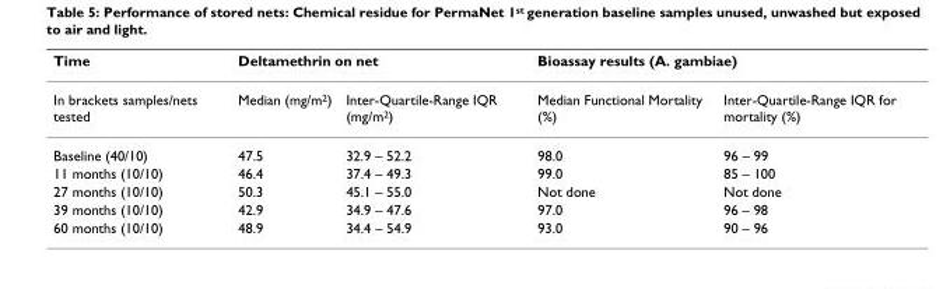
<table><thead><tr><td rowspan="2">Time In brackets samples/nets tested</td><td colspan="2">Deltamethrin on net</td><td colspan="2">Bioassay results (A. gambiae)</td></tr><tr><td>Median (mg/m2)</td><td>Inter-Quartile-Range IQR (mg/m2)</td><td>Median Functional Mortality (%)</td><td>Inter-Quartile-Range IQR for mortality (%)</td></tr></thead><tbody><tr><td>Baseline (40/10)</td><td>47.5</td><td>32.9 – 52.2</td><td>98.0</td><td>96 – 99</td></tr><tr><td>11 months (10/10)</td><td>46.4</td><td>37.4 – 49.3</td><td>99.0</td><td>85 – 100</td></tr><tr><td>27 months (10/10)</td><td>50.3</td><td>45.1 – 55.0</td><td>Not done</td><td>Not done</td></tr><tr><td>39 months (10/10)</td><td>42.9</td><td>34.9 – 47.6</td><td>97.0</td><td>96 – 98</td></tr><tr><td>60 months (10/10)</td><td>48.9</td><td>34.4 – 54.9</td><td>93.0</td><td>90 – 96</td></tr></tbody></table>